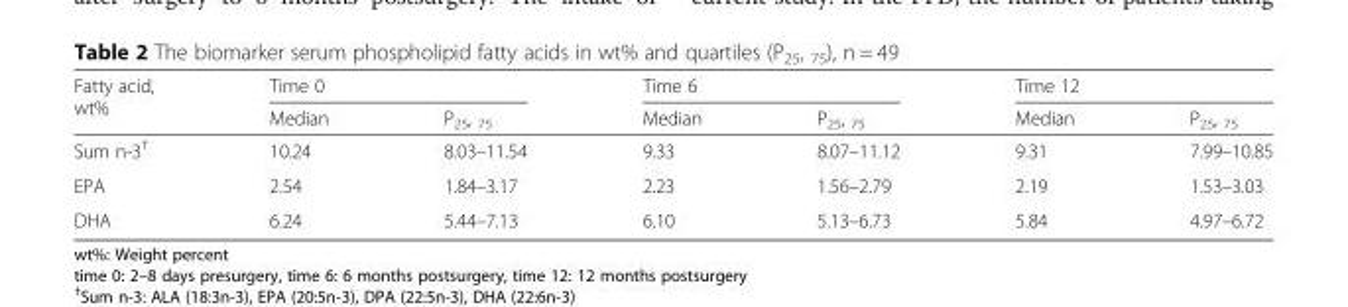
<table><thead><tr><td rowspan="2">Fatty acid, wt%</td><td colspan="2">Time 0</td><td colspan="2">Time 6</td><td colspan="2">Time 12</td></tr><tr><td>Median</td><td>P<sub>25</sub>, <sub>75</sub></td><td>Median</td><td>P<sub>25</sub>, <sub>75</sub></td><td>Median</td><td>P<sub>25</sub>, <sub>75</sub></td></tr></thead><tbody><tr><td>Sum n-3<sup>†</sup></td><td>10.24</td><td>8.03–11.54</td><td>9.33</td><td>8.07–11.12</td><td>9.31</td><td>7.99–10.85</td></tr><tr><td>EPA</td><td>2.54</td><td>1.84–3.17</td><td>2.23</td><td>1.56–2.79</td><td>2.19</td><td>1.53–3.03</td></tr><tr><td>DHA</td><td>6.24</td><td>5.44–7.13</td><td>6.10</td><td>5.13–6.73</td><td>5.84</td><td>4.97–6.72</td></tr></tbody></table>